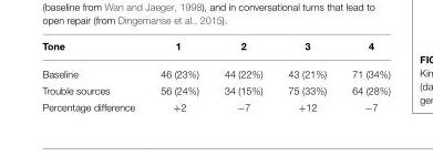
<table><thead><tr><td>Tone</td><td>1</td><td>2</td><td>3</td><td>4</td></tr></thead><tbody><tr><td>Baseline</td><td>46 (23%)</td><td>44 (22%)</td><td>43 (21%)</td><td>71 (34%)</td></tr><tr><td>Trouble sources</td><td>56 (24%)</td><td>34 (15%)</td><td>75 (33%)</td><td>64 (28%)</td></tr><tr><td>Percentage difference</td><td>+2</td><td>−7</td><td>+12</td><td>−7</td></tr></tbody></table>